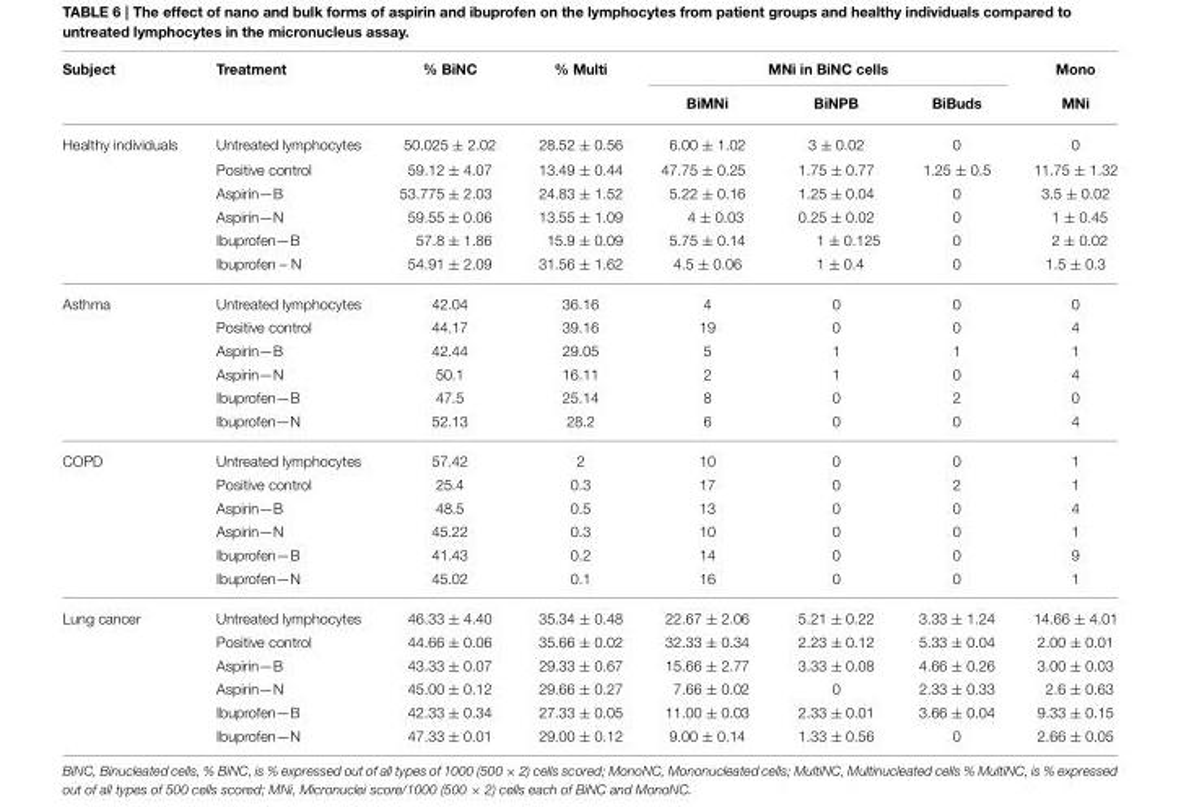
<table><thead><tr><td rowspan="2">Subject</td><td rowspan="2">Treatment</td><td rowspan="2">% BiNC</td><td rowspan="2">% Multi</td><td colspan="3">MNi in BiNC cells</td><td rowspan="2">Mono MNi</td></tr><tr><td>BiMNi</td><td>BiNPB</td><td>BiBuds</td></tr></thead><tbody><tr><td rowspan="6">Healthy individuals</td><td>Untreated lymphocytes</td><td>50.025 ± 2.02</td><td>28.52 ± 0.56</td><td>6.00 ± 1.02</td><td>3 ± 0.02</td><td>0</td><td>0</td></tr><tr><td>Positive control</td><td>59.12 ± 4.07</td><td>13.49 ± 0.44</td><td>47.75 ± 0.25</td><td>1.75 ± 0.77</td><td>1.25 ± 0.5</td><td>11.75 ± 1.32</td></tr><tr><td>Aspirin—B</td><td>53.775 ± 2.03</td><td>24.83 ± 1.52</td><td>5.22 ± 0.16</td><td>1.25 ± 0.04</td><td>0</td><td>3.5 ± 0.02</td></tr><tr><td>Aspirin—N</td><td>59.55 ± 0.06</td><td>13.55 ± 1.09</td><td>4 ± 0.03</td><td>0.25 ± 0.02</td><td>0</td><td>1 ± 0.45</td></tr><tr><td>Ibuprofen—B</td><td>57.8 ± 1.86</td><td>15.9 ± 0.09</td><td>5.75 ± 0.14</td><td>1 ± 0.125</td><td>0</td><td>2 ± 0.02</td></tr><tr><td>Ibuprofen – N</td><td>54.91 ± 2.09</td><td>31.56 ± 1.62</td><td>4.5 ± 0.06</td><td>1 ± 0.4</td><td>0</td><td>1.5 ± 0.3</td></tr><tr><td rowspan="6">Asthma</td><td>Untreated lymphocytes</td><td>42.04</td><td>36.16</td><td>4</td><td>0</td><td>0</td><td>0</td></tr><tr><td>Positive control</td><td>44.17</td><td>39.16</td><td>19</td><td>0</td><td>0</td><td>4</td></tr><tr><td>Aspirin—B</td><td>42.44</td><td>29.05</td><td>5</td><td>1</td><td>1</td><td>1</td></tr><tr><td>Aspirin—N</td><td>50.1</td><td>16.11</td><td>2</td><td>1</td><td>0</td><td>4</td></tr><tr><td>Ibuprofen—B</td><td>47.5</td><td>25.14</td><td>8</td><td>0</td><td>2</td><td>0</td></tr><tr><td>Ibuprofen—N</td><td>52.13</td><td>28.2</td><td>6</td><td>0</td><td>0</td><td>4</td></tr><tr><td rowspan="6">COPD</td><td>Untreated lymphocytes</td><td>57.42</td><td>2</td><td>10</td><td>0</td><td>0</td><td>1</td></tr><tr><td>Positive control</td><td>25.4</td><td>0.3</td><td>17</td><td>0</td><td>2</td><td>1</td></tr><tr><td>Aspirin—B</td><td>48.5</td><td>0.5</td><td>13</td><td>0</td><td>0</td><td>4</td></tr><tr><td>Aspirin—N</td><td>45.22</td><td>0.3</td><td>10</td><td>0</td><td>0</td><td>1</td></tr><tr><td>Ibuprofen—B</td><td>41.43</td><td>0.2</td><td>14</td><td>0</td><td>0</td><td>9</td></tr><tr><td>Ibuprofen—N</td><td>45.02</td><td>0.1</td><td>16</td><td>0</td><td>0</td><td>1</td></tr><tr><td rowspan="6">Lung cancer</td><td>Untreated lymphocytes</td><td>46.33 ± 4.40</td><td>35.34 ± 0.48</td><td>22.67 ± 2.06</td><td>5.21 ± 0.22</td><td>3.33 ± 1.24</td><td>14.66 ± 4.01</td></tr><tr><td>Positive control</td><td>44.66 ± 0.06</td><td>35.66 ± 0.02</td><td>32.33 ± 0.34</td><td>2.23 ± 0.12</td><td>5.33 ± 0.04</td><td>2.00 ± 0.01</td></tr><tr><td>Aspirin—B</td><td>43.33 ± 0.07</td><td>29.33 ± 0.67</td><td>15.66 ± 2.77</td><td>3.33 ± 0.08</td><td>4.66 ± 0.26</td><td>3.00 ± 0.03</td></tr><tr><td>Aspirin—N</td><td>45.00 ± 0.12</td><td>29.66 ± 0.27</td><td>7.66 ± 0.02</td><td>0</td><td>2.33 ± 0.33</td><td>2.6 ± 0.63</td></tr><tr><td>Ibuprofen—B</td><td>42.33 ± 0.34</td><td>27.33 ± 0.05</td><td>11.00 ± 0.03</td><td>2.33 ± 0.01</td><td>3.66 ± 0.04</td><td>9.33 ± 0.15</td></tr><tr><td>Ibuprofen—N</td><td>47.33 ± 0.01</td><td>29.00 ± 0.12</td><td>9.00 ± 0.14</td><td>1.33 ± 0.56</td><td>0</td><td>2.66 ± 0.05</td></tr></tbody></table>